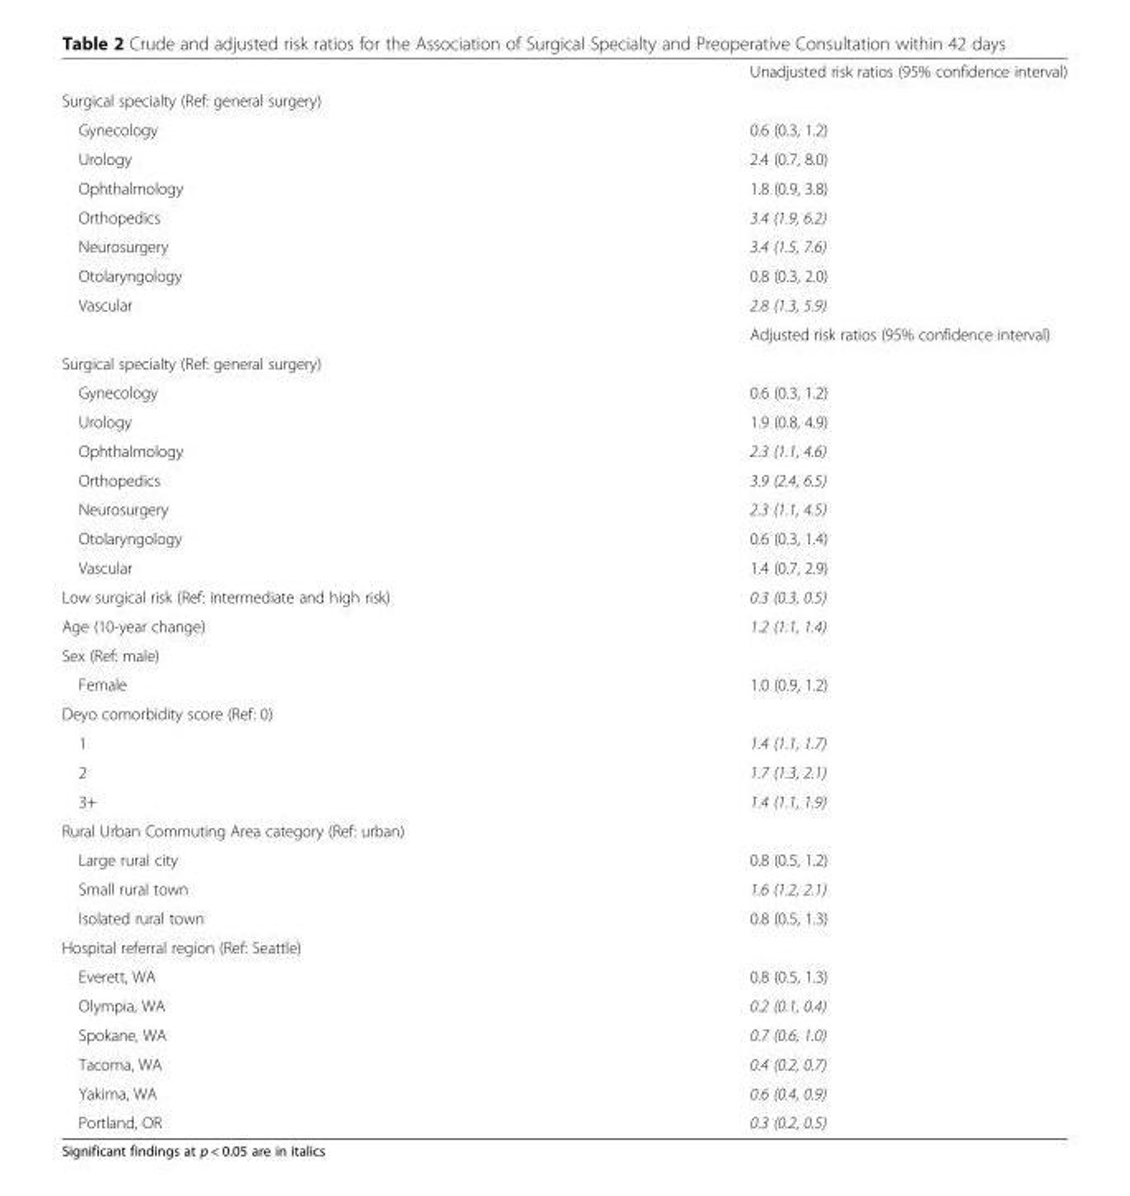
<table><thead><tr><td></td><td>Unadjusted risk ratios (95% confidence interval)</td></tr></thead><tbody><tr><td colspan="2">Surgical specialty (Ref: general surgery)</td></tr><tr><td>Gynecology</td><td>0.6 (0.3, 1.2)</td></tr><tr><td>Urology</td><td>2.4 (0.7, 8.0)</td></tr><tr><td>Ophthalmology</td><td>1.8 (0.9, 3.8)</td></tr><tr><td>Orthopedics</td><td>3.4 (1.9, 6.2)</td></tr><tr><td>Neurosurgery</td><td>3.4 (1.5, 7.6)</td></tr><tr><td>Otolaryngology</td><td>0.8 (0.3, 2.0)</td></tr><tr><td rowspan="2">Vascular</td><td>2.8 (1.3, 5.9)</td></tr><tr><td>Adjusted risk ratios (95% confidence interval)</td></tr><tr><td colspan="2">Surgical specialty (Ref: general surgery)</td></tr><tr><td>Gynecology</td><td>0.6 (0.3, 1.2)</td></tr><tr><td>Urology</td><td>1.9 (0.8, 4.9)</td></tr><tr><td>Ophthalmology</td><td>2.3 (1.1, 4.6)</td></tr><tr><td>Orthopedics</td><td>3.9 (2.4, 6.5)</td></tr><tr><td>Neurosurgery</td><td>2.3 (1.1, 4.5)</td></tr><tr><td>Otolaryngology</td><td>0.6 (0.3, 1.4)</td></tr><tr><td>Vascular</td><td>1.4 (0.7, 2.9)</td></tr><tr><td>Low surgical risk (Ref: intermediate and high risk)</td><td>0.3 (0.3, 0.5)</td></tr><tr><td>Age (10-year change)</td><td>1.2 (1.1, 1.4)</td></tr><tr><td colspan="2">Sex (Ref: male)</td></tr><tr><td>Female</td><td>1.0 (0.9, 1.2)</td></tr><tr><td colspan="2">Deyo comorbidity score (Ref: 0)</td></tr><tr><td>1</td><td>1.4 (1.1, 1.7)</td></tr><tr><td>2</td><td>1.7 (1.3, 2.1)</td></tr><tr><td>3+</td><td>1.4 (1.1, 1.9)</td></tr><tr><td colspan="2">Rural Urban Commuting Area category (Ref: urban)</td></tr><tr><td>Large rural city</td><td>0.8 (0.5, 1.2)</td></tr><tr><td>Small rural town</td><td>1.6 (1.2, 2.1)</td></tr><tr><td>Isolated rural town</td><td>0.8 (0.5, 1.3)</td></tr><tr><td colspan="2">Hospital referral region (Ref: Seattle)</td></tr><tr><td>Everett, WA</td><td>0.8 (0.5, 1.3)</td></tr><tr><td>Olympia, WA</td><td>0.2 (0.1, 0.4)</td></tr><tr><td>Spokane, WA</td><td>0.7 (0.6, 1.0)</td></tr><tr><td>Tacoma, WA</td><td>0.4 (0.2, 0.7)</td></tr><tr><td>Yakima, WA</td><td>0.6 (0.4, 0.9)</td></tr><tr><td>Portland, OR</td><td>0.3 (0.2, 0.5)</td></tr></tbody></table>